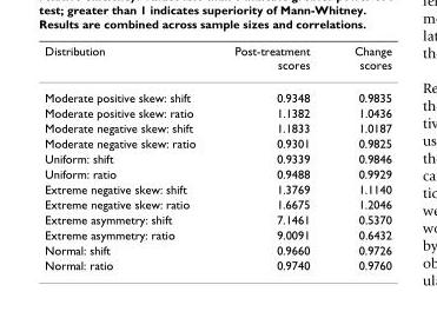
<table><thead><tr><td>Distribution</td><td>Post-treatment scores</td><td>Change scores</td></tr></thead><tbody><tr><td>Moderate positive skew: shift</td><td>0.9348</td><td>0.9835</td></tr><tr><td>Moderate positive skew: ratio</td><td>1.1382</td><td>1.0436</td></tr><tr><td>Moderate negative skew: shift</td><td>1.1833</td><td>1.0187</td></tr><tr><td>Moderate negative skew: ratio</td><td>0.9301</td><td>0.9825</td></tr><tr><td>Uniform: shift</td><td>0.9339</td><td>0.9846</td></tr><tr><td>Uniform: ratio</td><td>0.9488</td><td>0.9929</td></tr><tr><td>Extreme negative skew: shift</td><td>1.3769</td><td>1.1140</td></tr><tr><td>Extreme negative skew: ratio</td><td>1.6675</td><td>1.2046</td></tr><tr><td>Extreme asymmetry: shift</td><td>7.1461</td><td>0.5370</td></tr><tr><td>Extreme asymmetry: ratio</td><td>9.0091</td><td>0.6432</td></tr><tr><td>Normal: shift</td><td>0.9660</td><td>0.9726</td></tr><tr><td>Normal: ratio</td><td>0.9740</td><td>0.9760</td></tr></tbody></table>